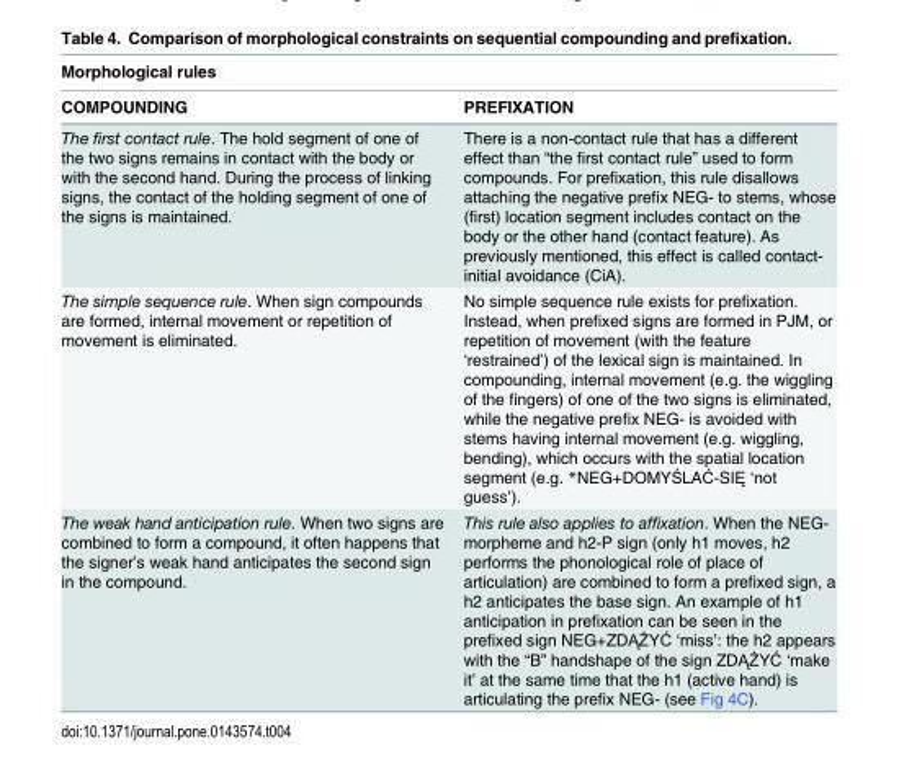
<table><thead><tr><td colspan="2">Morphological rules</td></tr><tr><td>COMPOUNDING</td><td>PREFIXATION</td></tr></thead><tbody><tr><td>The first contact rule. The hold segment of one of the two signs remains in contact with the body or with the second hand. During the process of linking signs, the contact of the holding segment of one of the signs is maintained.</td><td>There is a non-contact rule that has a different effect than “the first contact rule” used to form compounds. For prefixation, this rule disallows attaching the negative prefix NEG- to stems, whose (first) location segment includes contact on the body or the other hand (contact feature). As previously mentioned, this effect is called contact- initial avoidance (CiA).</td></tr><tr><td>The simple sequence rule. When sign compounds are formed, internal movement or repetition of movement is eliminated.</td><td>No simple sequence rule exists for prefixation. Instead, when prefixed signs are formed in PJM, or repetition of movement (with the feature ‘restrained’) of the lexical sign is maintained. In compounding, internal movement (e.g. the wiggling of the fingers) of one of the two signs is eliminated, while the negative prefix NEG- is avoided with stems having internal movement (e.g. wiggling, bending), which occurs with the spatial location segment (e.g. *NEG+DOMYŚLAĆ-SIĘ ‘not guess’).</td></tr><tr><td>The weak hand anticipation rule. When two signs are combined to form a compound, it often happens that the signer’s weak hand anticipates the second sign in the compound.</td><td>This rule also applies to affixation. When the NEG- morpheme and h2-P sign (only h1 moves, h2 performs the phonological role of place of articulation) are combined to form a prefixed sign, a h2 anticipates the base sign. An example of h1 anticipation in prefixation can be seen in the prefixed sign NEG+ZDĄŻYĆ ‘miss’: the h2 appears with the “B” handshape of the sign ZDĄŻYĆ ‘make it’ at the same time that the h1 (active hand) is articulating the prefix NEG- (see Fig 4C).</td></tr></tbody></table>